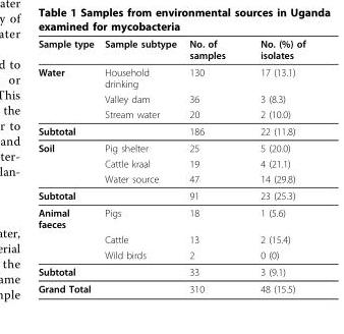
<table><thead><tr><td>Sample type</td><td>Sample subtype</td><td>No. of samples</td><td>No. (%) of isolates</td></tr></thead><tbody><tr><td rowspan="3">Water</td><td>Household drinking</td><td>130</td><td>17 (13.1)</td></tr><tr><td>Valley dam</td><td>36</td><td>3 (8.3)</td></tr><tr><td>Stream water</td><td>20</td><td>2 (10.0)</td></tr><tr><td>Subtotal</td><td></td><td>186</td><td>22 (11.8)</td></tr><tr><td rowspan="3">Soil</td><td>Pig shelter</td><td>25</td><td>5 (20.0)</td></tr><tr><td>Cattle kraal</td><td>19</td><td>4 (21.1)</td></tr><tr><td>Water source</td><td>47</td><td>14 (29.8)</td></tr><tr><td>Subtotal</td><td></td><td>91</td><td>23 (25.3)</td></tr><tr><td rowspan="3">Animal faeces</td><td>Pigs</td><td>18</td><td>1 (5.6)</td></tr><tr><td>Cattle</td><td>13</td><td>2 (15.4)</td></tr><tr><td>Wild birds</td><td>2</td><td>0 (0)</td></tr><tr><td>Subtotal</td><td></td><td>33</td><td>3 (9.1)</td></tr><tr><td>Grand Total</td><td></td><td>310</td><td>48 (15.5)</td></tr></tbody></table>